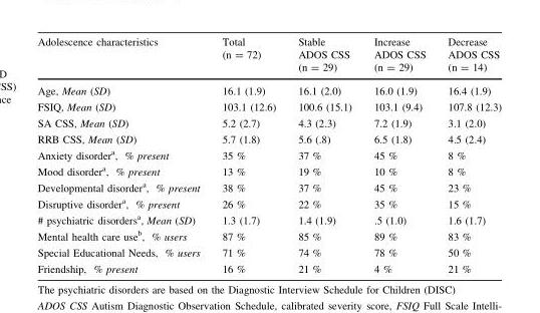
<table><thead><tr><td>Adolescence characteristics</td><td>Total (n = 72)</td><td>Stable ADOS CSS (n = 29)</td><td>Increase ADOS CSS (n = 29)</td><td>Decrease ADOS CSS (n = 14)</td></tr></thead><tbody><tr><td>Age, Mean (SD)</td><td>16.1 (1.9)</td><td>16.1 (2.0)</td><td>16.0 (1.9)</td><td>16.4 (1.9)</td></tr><tr><td>FSIQ, Mean (SD)</td><td>103.1 (12.6)</td><td>100.6 (15.1)</td><td>103.1 (9.4)</td><td>107.8 (12.3)</td></tr><tr><td>SA CSS, Mean (SD)</td><td>5.2 (2.7)</td><td>4.3 (2.3)</td><td>7.2 (1.9)</td><td>3.1 (2.0)</td></tr><tr><td>RRB CSS, Mean (SD)</td><td>5.7 (1.8)</td><td>5.6 (.8)</td><td>6.5 (1.8)</td><td>4.5 (2.4)</td></tr><tr><td>Anxiety disorder<sup>a</sup>, % present</td><td>35 %</td><td>37 %</td><td>45 %</td><td>8 %</td></tr><tr><td>Mood disorder<sup>a</sup>, % present</td><td>13 %</td><td>19 %</td><td>10 %</td><td>8 %</td></tr><tr><td>Developmental disorder<sup>a</sup>, % present</td><td>38 %</td><td>37 %</td><td>45 %</td><td>23 %</td></tr><tr><td>Disruptive disorder<sup>a</sup>, % present</td><td>26 %</td><td>22 %</td><td>35 %</td><td>15 %</td></tr><tr><td># psychiatric disorders<sup>a</sup>, Mean (SD)</td><td>1.3 (1.7)</td><td>1.4 (1.9)</td><td>.5 (1.0)</td><td>1.6 (1.7)</td></tr><tr><td>Mental health care use<sup>b</sup>, % users</td><td>87 %</td><td>85 %</td><td>89 %</td><td>83 %</td></tr><tr><td>Special Educational Needs, % users</td><td>71 %</td><td>74 %</td><td>78 %</td><td>50 %</td></tr><tr><td>Friendship, % present</td><td>16 %</td><td>21 %</td><td>4 %</td><td>21 %</td></tr></tbody></table>